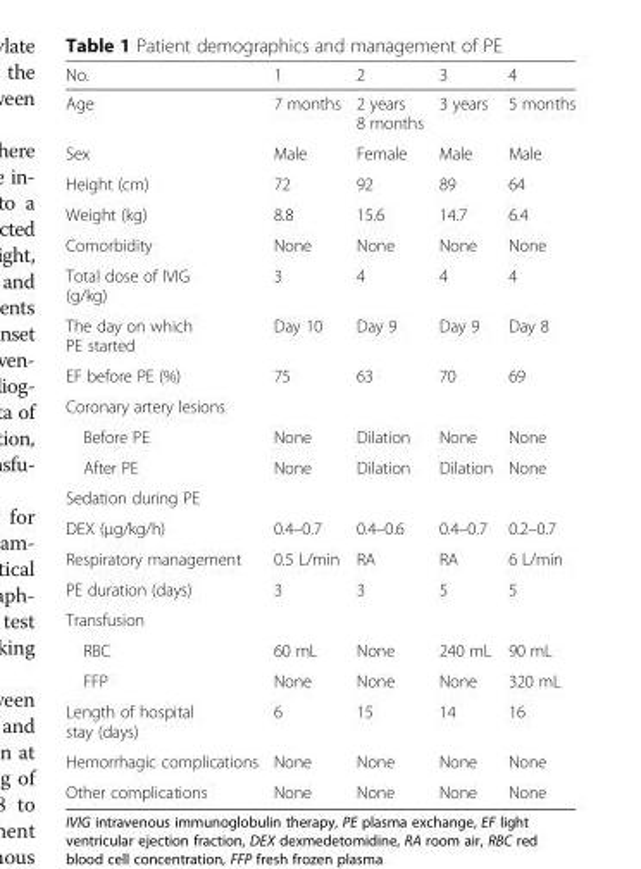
<table><thead><tr><td>No.</td><td>1</td><td>2</td><td>3</td><td>4</td></tr></thead><tbody><tr><td>Age</td><td>7 months</td><td>2 years 8 months</td><td>3 years</td><td>5 months</td></tr><tr><td>Sex</td><td>Male</td><td>Female</td><td>Male</td><td>Male</td></tr><tr><td>Height (cm)</td><td>72</td><td>92</td><td>89</td><td>64</td></tr><tr><td>Weight (kg)</td><td>8.8</td><td>15.6</td><td>14.7</td><td>6.4</td></tr><tr><td>Comorbidity</td><td>None</td><td>None</td><td>None</td><td>None</td></tr><tr><td>Total dose of IVIG (g/kg)</td><td>3</td><td>4</td><td>4</td><td>4</td></tr><tr><td>The day on which PE started</td><td>Day 10</td><td>Day 9</td><td>Day 9</td><td>Day 8</td></tr><tr><td>EF before PE (%)</td><td>75</td><td>63</td><td>70</td><td>69</td></tr><tr><td colspan="5">Coronary artery lesions</td></tr><tr><td>Before PE</td><td>None</td><td>Dilation</td><td>None</td><td>None</td></tr><tr><td>After PE</td><td>None</td><td>Dilation</td><td>Dilation</td><td>None</td></tr><tr><td colspan="5">Sedation during PE</td></tr><tr><td>DEX (μg/kg/h)</td><td>0.4–0.7</td><td>0.4–0.6</td><td>0.4–0.7</td><td>0.2–0.7</td></tr><tr><td>Respiratory management</td><td>0.5 L/min</td><td>RA</td><td>RA</td><td>6 L/min</td></tr><tr><td>PE duration (days)</td><td>3</td><td>3</td><td>5</td><td>5</td></tr><tr><td colspan="5">Transfusion</td></tr><tr><td>RBC</td><td>60 mL</td><td>None</td><td>240 mL</td><td>90 mL</td></tr><tr><td>FFP</td><td>None</td><td>None</td><td>None</td><td>320 mL</td></tr><tr><td>Length of hospital stay (days)</td><td>6</td><td>15</td><td>14</td><td>16</td></tr><tr><td>Hemorrhagic complications</td><td>None</td><td>None</td><td>None</td><td>None</td></tr><tr><td>Other complications</td><td>None</td><td>None</td><td>None</td><td>None</td></tr></tbody></table>